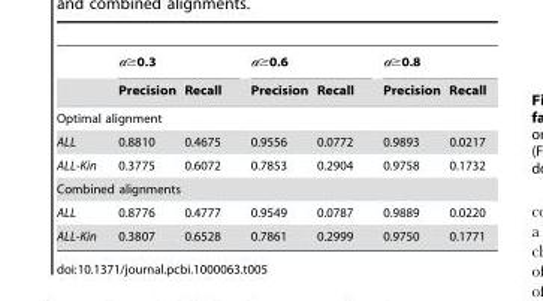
<table><thead><tr><td rowspan="2"></td><td colspan="2">α≥0.3</td><td colspan="2">α≥0.6</td><td colspan="2">α≥0.8</td></tr><tr><td>Precision</td><td>Recall</td><td>Precision</td><td>Recall</td><td>Precision</td><td>Recall</td></tr></thead><tbody><tr><td colspan="7">Optimal alignment</td></tr><tr><td>ALL</td><td>0.8810</td><td>0.4675</td><td>0.9556</td><td>0.0772</td><td>0.9893</td><td>0.0217</td></tr><tr><td>ALL-Kin</td><td>0.3775</td><td>0.6072</td><td>0.7853</td><td>0.2904</td><td>0.9758</td><td>0.1732</td></tr><tr><td colspan="7">Combined alignments</td></tr><tr><td>ALL</td><td>0.8776</td><td>0.4777</td><td>0.9549</td><td>0.0787</td><td>0.9889</td><td>0.0220</td></tr><tr><td>ALL-Kin</td><td>0.3807</td><td>0.6528</td><td>0.7861</td><td>0.2999</td><td>0.9750</td><td>0.1771</td></tr></tbody></table>